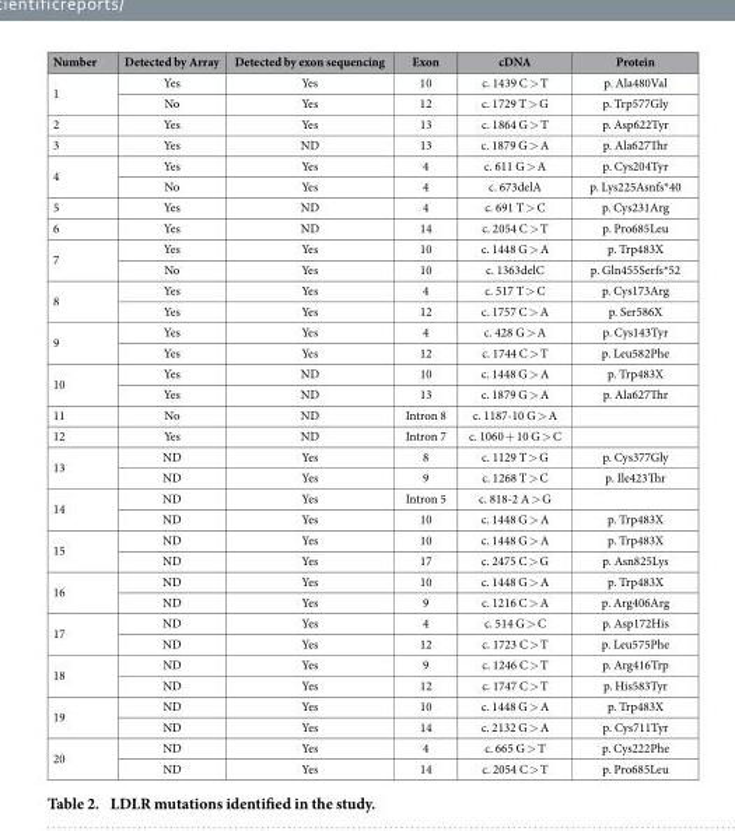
<table><thead><tr><td>Number</td><td>Detected by Array</td><td>Detected by exon sequencing</td><td>Exon</td><td>cDNA</td><td>Protein</td></tr></thead><tbody><tr><td rowspan="2">1</td><td>Yes</td><td>Yes</td><td>10</td><td>c. 1439 C &gt; T</td><td>p. Ala480Val</td></tr><tr><td>No</td><td>Yes</td><td>12</td><td>c. 1729 T &gt; G</td><td>p. Trp577Gly</td></tr><tr><td>2</td><td>Yes</td><td>Yes</td><td>13</td><td>c. 1864 G &gt; T</td><td>p. Asp622Tyr</td></tr><tr><td>3</td><td>Yes</td><td>ND</td><td>13</td><td>c. 1879 G &gt; A</td><td>p. Ala627Thr</td></tr><tr><td rowspan="2">4</td><td>Yes</td><td>Yes</td><td>4</td><td>c. 611 G &gt; A</td><td>p. Cys204Tyr</td></tr><tr><td>No</td><td>Yes</td><td>4</td><td>c. 673delA</td><td>p. Lys225Asnfs*40</td></tr><tr><td>5</td><td>Yes</td><td>ND</td><td>4</td><td>c. 691 T &gt; C</td><td>p. Cys231Arg</td></tr><tr><td>6</td><td>Yes</td><td>ND</td><td>14</td><td>c. 2054 C &gt; T</td><td>p. Pro685Leu</td></tr><tr><td rowspan="2">7</td><td>Yes</td><td>Yes</td><td>10</td><td>c. 1448 G &gt; A</td><td>p. Trp483X</td></tr><tr><td>No</td><td>Yes</td><td>10</td><td>c. 1363delC</td><td>p. Gln455Serfs*52</td></tr><tr><td rowspan="2">8</td><td>Yes</td><td>Yes</td><td>4</td><td>c. 517 T &gt; C</td><td>p. Cys173Arg</td></tr><tr><td>Yes</td><td>Yes</td><td>12</td><td>c. 1757 C &gt; A</td><td>p. Ser586X</td></tr><tr><td rowspan="2">9</td><td>Yes</td><td>Yes</td><td>4</td><td>c. 428 G &gt; A</td><td>p. Cys143Tyr</td></tr><tr><td>Yes</td><td>Yes</td><td>12</td><td>c. 1744 C &gt; T</td><td>p. Leu582Phe</td></tr><tr><td rowspan="2">10</td><td>Yes</td><td>ND</td><td>10</td><td>c. 1448 G &gt; A</td><td>p. Trp483X</td></tr><tr><td>Yes</td><td>ND</td><td>13</td><td>c. 1879 G &gt; A</td><td>p. Ala627Thr</td></tr><tr><td>11</td><td>No</td><td>ND</td><td>Intron 8</td><td>c. 1187-10 G &gt; A</td><td></td></tr><tr><td>12</td><td>Yes</td><td>ND</td><td>Intron 7</td><td>c. 1060 + 10 G &gt; C</td><td></td></tr><tr><td rowspan="2">13</td><td>ND</td><td>Yes</td><td>8</td><td>c. 1129 T &gt; G</td><td>p. Cys377Gly</td></tr><tr><td>ND</td><td>Yes</td><td>9</td><td>c. 1268 T &gt; C</td><td>p. Ile423Thr</td></tr><tr><td rowspan="2">14</td><td>ND</td><td>Yes</td><td>Intron 5</td><td>c. 818-2 A &gt; G</td><td></td></tr><tr><td>ND</td><td>Yes</td><td>10</td><td>c. 1448 G &gt; A</td><td>p. Trp483X</td></tr><tr><td rowspan="2">15</td><td>ND</td><td>Yes</td><td>10</td><td>c. 1448 G &gt; A</td><td>p. Trp483X</td></tr><tr><td>ND</td><td>Yes</td><td>17</td><td>c. 2475 C &gt; G</td><td>p. Asn825Lys</td></tr><tr><td rowspan="2">16</td><td>ND</td><td>Yes</td><td>10</td><td>c. 1448 G &gt; A</td><td>p. Trp483X</td></tr><tr><td>ND</td><td>Yes</td><td>9</td><td>c. 1216 C &gt; A</td><td>p. Arg406Arg</td></tr><tr><td rowspan="2">17</td><td>ND</td><td>Yes</td><td>4</td><td>c. 514 G &gt; C</td><td>p. Asp172His</td></tr><tr><td>ND</td><td>Yes</td><td>12</td><td>c. 1723 C &gt; T</td><td>p. Leu575Phe</td></tr><tr><td rowspan="2">18</td><td>ND</td><td>Yes</td><td>9</td><td>c. 1246 C &gt; T</td><td>p. Arg416Trp</td></tr><tr><td>ND</td><td>Yes</td><td>12</td><td>c. 1747 C &gt; T</td><td>p. His583Tyr</td></tr><tr><td rowspan="2">19</td><td>ND</td><td>Yes</td><td>10</td><td>c. 1448 G &gt; A</td><td>p. Trp483X</td></tr><tr><td>ND</td><td>Yes</td><td>14</td><td>c. 2132 G &gt; A</td><td>p. Cys711Tyr</td></tr><tr><td rowspan="2">20</td><td>ND</td><td>Yes</td><td>4</td><td>c. 665 G &gt; T</td><td>p. Cys222Phe</td></tr><tr><td>ND</td><td>Yes</td><td>14</td><td>c. 2054 C &gt; T</td><td>p. Pro685Leu</td></tr></tbody></table>